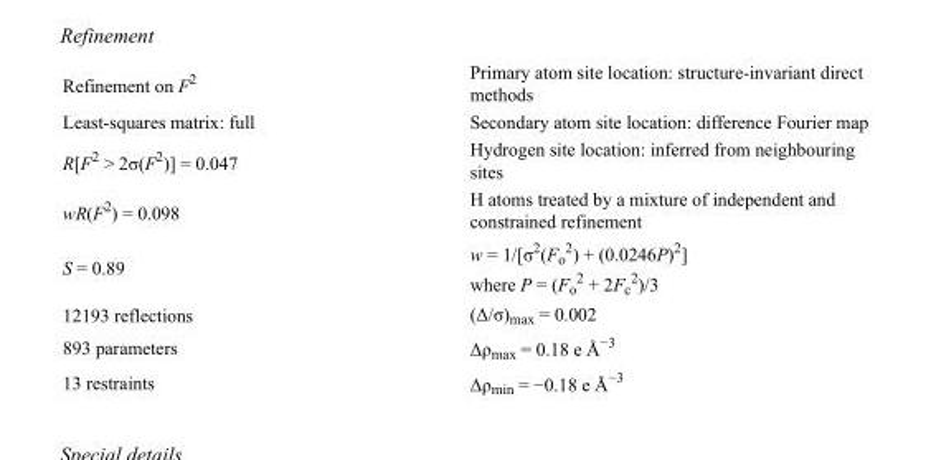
<table><tbody><tr><td>Refinement on F<sup>2</sup></td><td>Primary atom site location: structure-invariant direct methods</td></tr><tr><td>Least-squares matrix: full</td><td>Secondary atom site location: difference Fourier map</td></tr><tr><td>R[F<sup>2</sup> &gt; 2σ(F<sup>2</sup>)] = 0.047</td><td>Hydrogen site location: inferred from neighbouring sites</td></tr><tr><td>wR(F<sup>2</sup>) = 0.098</td><td>H atoms treated by a mixture of independent and constrained refinement</td></tr><tr><td>S = 0.89</td><td>w = 1/[σ<sup>2</sup>(F<sub>o</sub> <sup>2</sup>) + (0.0246P)<sup>2</sup>] where P = (F<sub>o</sub> <sup>2</sup> + 2F<sub>c</sub> <sup>2</sup>)/3</td></tr><tr><td>12193 reflections</td><td>(Δ/σ)<sub>max</sub> = 0.002</td></tr><tr><td>893 parameters</td><td>Δρ<sub>max</sub> = 0.18 e Å<sup>−3</sup></td></tr><tr><td>13 restraints</td><td>Δρ<sub>min</sub> = −0.18 e Å<sup>−3</sup></td></tr></tbody></table>